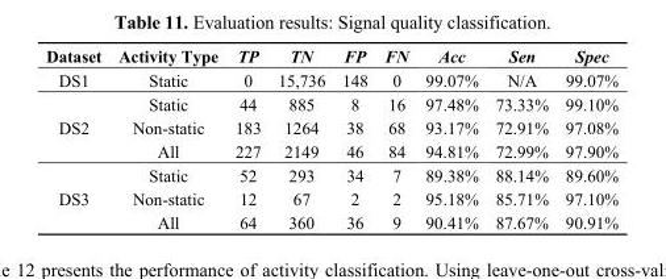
<table><thead><tr><td>Dataset</td><td>Activity Type</td><td>TP</td><td>TN</td><td>FP</td><td>FN</td><td>Acc</td><td>Sen</td><td>Spec</td></tr></thead><tbody><tr><td>DS1</td><td>Static</td><td>0</td><td>15,736</td><td>148</td><td>0</td><td>99.07%</td><td>N/A</td><td>99.07%</td></tr><tr><td rowspan="3">DS2</td><td>Static</td><td>44</td><td>885</td><td>8</td><td>16</td><td>97.48%</td><td>73.33%</td><td>99.10%</td></tr><tr><td>Non-static</td><td>183</td><td>1264</td><td>38</td><td>68</td><td>93.17%</td><td>72.91%</td><td>97.08%</td></tr><tr><td>All</td><td>227</td><td>2149</td><td>46</td><td>84</td><td>94.81%</td><td>72.99%</td><td>97.90%</td></tr><tr><td rowspan="3">DS3</td><td>Static</td><td>52</td><td>293</td><td>34</td><td>7</td><td>89.38%</td><td>88.14%</td><td>89.60%</td></tr><tr><td>Non-static</td><td>12</td><td>67</td><td>2</td><td>2</td><td>95.18%</td><td>85.71%</td><td>97.10%</td></tr><tr><td>All</td><td>64</td><td>360</td><td>36</td><td>9</td><td>90.41%</td><td>87.67%</td><td>90.91%</td></tr></tbody></table>